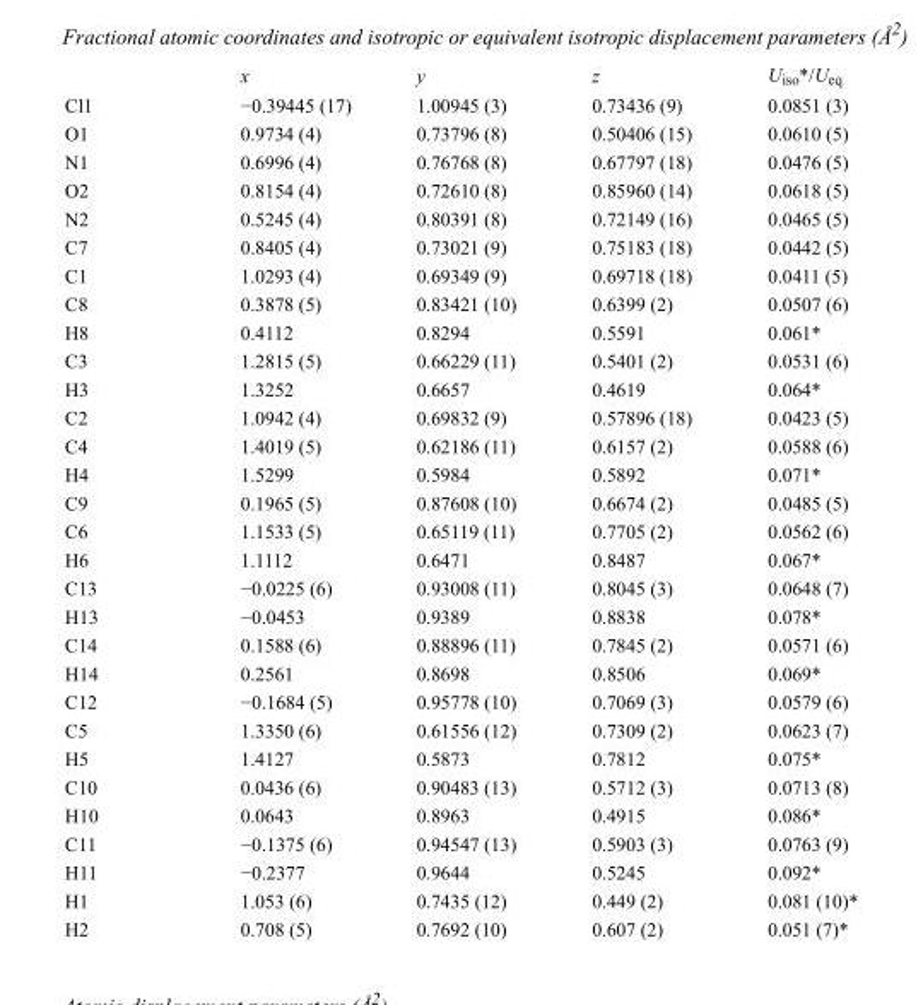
<table><thead><tr><td></td><td>x</td><td>y</td><td>z</td><td>U<sub>iso</sub>*/U<sub>eq</sub></td></tr></thead><tbody><tr><td>Cl1</td><td>−0.39445 (17)</td><td>1.00945 (3)</td><td>0.73436 (9)</td><td>0.0851 (3)</td></tr><tr><td>O1</td><td>0.9734 (4)</td><td>0.73796 (8)</td><td>0.50406 (15)</td><td>0.0610 (5)</td></tr><tr><td>N1</td><td>0.6996 (4)</td><td>0.76768 (8)</td><td>0.67797 (18)</td><td>0.0476 (5)</td></tr><tr><td>O2</td><td>0.8154 (4)</td><td>0.72610 (8)</td><td>0.85960 (14)</td><td>0.0618 (5)</td></tr><tr><td>N2</td><td>0.5245 (4)</td><td>0.80391 (8)</td><td>0.72149 (16)</td><td>0.0465 (5)</td></tr><tr><td>C7</td><td>0.8405 (4)</td><td>0.73021 (9)</td><td>0.75183 (18)</td><td>0.0442 (5)</td></tr><tr><td>C1</td><td>1.0293 (4)</td><td>0.69349 (9)</td><td>0.69718 (18)</td><td>0.0411 (5)</td></tr><tr><td>C8</td><td>0.3878 (5)</td><td>0.83421 (10)</td><td>0.6399 (2)</td><td>0.0507 (6)</td></tr><tr><td>H8</td><td>0.4112</td><td>0.8294</td><td>0.5591</td><td>0.061*</td></tr><tr><td>C3</td><td>1.2815 (5)</td><td>0.66229 (11)</td><td>0.5401 (2)</td><td>0.0531 (6)</td></tr><tr><td>H3</td><td>1.3252</td><td>0.6657</td><td>0.4619</td><td>0.064*</td></tr><tr><td>C2</td><td>1.0942 (4)</td><td>0.69832 (9)</td><td>0.57896 (18)</td><td>0.0423 (5)</td></tr><tr><td>C4</td><td>1.4019 (5)</td><td>0.62186 (11)</td><td>0.6157 (2)</td><td>0.0588 (6)</td></tr><tr><td>H4</td><td>1.5299</td><td>0.5984</td><td>0.5892</td><td>0.071*</td></tr><tr><td>C9</td><td>0.1965 (5)</td><td>0.87608 (10)</td><td>0.6674 (2)</td><td>0.0485 (5)</td></tr><tr><td>C6</td><td>1.1533 (5)</td><td>0.65119 (11)</td><td>0.7705 (2)</td><td>0.0562 (6)</td></tr><tr><td>H6</td><td>1.1112</td><td>0.6471</td><td>0.8487</td><td>0.067*</td></tr><tr><td>C13</td><td>−0.0225 (6)</td><td>0.93008 (11)</td><td>0.8045 (3)</td><td>0.0648 (7)</td></tr><tr><td>H13</td><td>−0.0453</td><td>0.9389</td><td>0.8838</td><td>0.078*</td></tr><tr><td>C14</td><td>0.1588 (6)</td><td>0.88896 (11)</td><td>0.7845 (2)</td><td>0.0571 (6)</td></tr><tr><td>H14</td><td>0.2561</td><td>0.8698</td><td>0.8506</td><td>0.069*</td></tr><tr><td>C12</td><td>−0.1684 (5)</td><td>0.95778 (10)</td><td>0.7069 (3)</td><td>0.0579 (6)</td></tr><tr><td>C5</td><td>1.3350 (6)</td><td>0.61556 (12)</td><td>0.7309 (2)</td><td>0.0623 (7)</td></tr><tr><td>H5</td><td>1.4127</td><td>0.5873</td><td>0.7812</td><td>0.075*</td></tr><tr><td>C10</td><td>0.0436 (6)</td><td>0.90483 (13)</td><td>0.5712 (3)</td><td>0.0713 (8)</td></tr><tr><td>H10</td><td>0.0643</td><td>0.8963</td><td>0.4915</td><td>0.086*</td></tr><tr><td>C11</td><td>−0.1375 (6)</td><td>0.94547 (13)</td><td>0.5903 (3)</td><td>0.0763 (9)</td></tr><tr><td>H11</td><td>−0.2377</td><td>0.9644</td><td>0.5245</td><td>0.092*</td></tr><tr><td>H1</td><td>1.053 (6)</td><td>0.7435 (12)</td><td>0.449 (2)</td><td>0.081 (10)*</td></tr><tr><td>H2</td><td>0.708 (5)</td><td>0.7692 (10)</td><td>0.607 (2)</td><td>0.051 (7)*</td></tr></tbody></table>